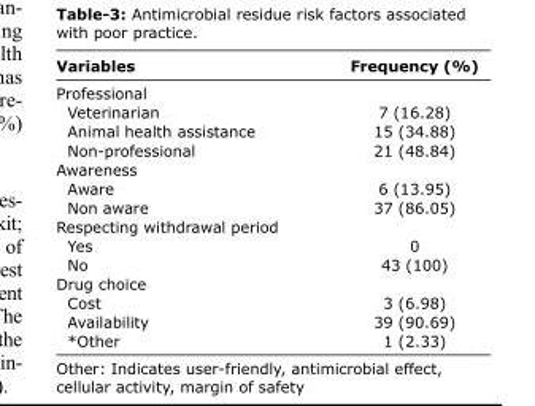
<table><thead><tr><td>Variables</td><td>Frequency (%)</td></tr></thead><tbody><tr><td colspan="2">Professional</td></tr><tr><td>Veterinarian</td><td>7 (16.28)</td></tr><tr><td>Animal health assistance</td><td>15 (34.88)</td></tr><tr><td>Non-professional</td><td>21 (48.84)</td></tr><tr><td colspan="2">Awareness</td></tr><tr><td>Aware</td><td>6 (13.95)</td></tr><tr><td>Non aware</td><td>37 (86.05)</td></tr><tr><td colspan="2">Respecting withdrawal period</td></tr><tr><td>Yes</td><td>0</td></tr><tr><td>No</td><td>43 (100)</td></tr><tr><td colspan="2">Drug choice</td></tr><tr><td>Cost</td><td>3 (6.98)</td></tr><tr><td>Availability</td><td>39 (90.69)</td></tr><tr><td>*Other</td><td>1 (2.33)</td></tr></tbody></table>